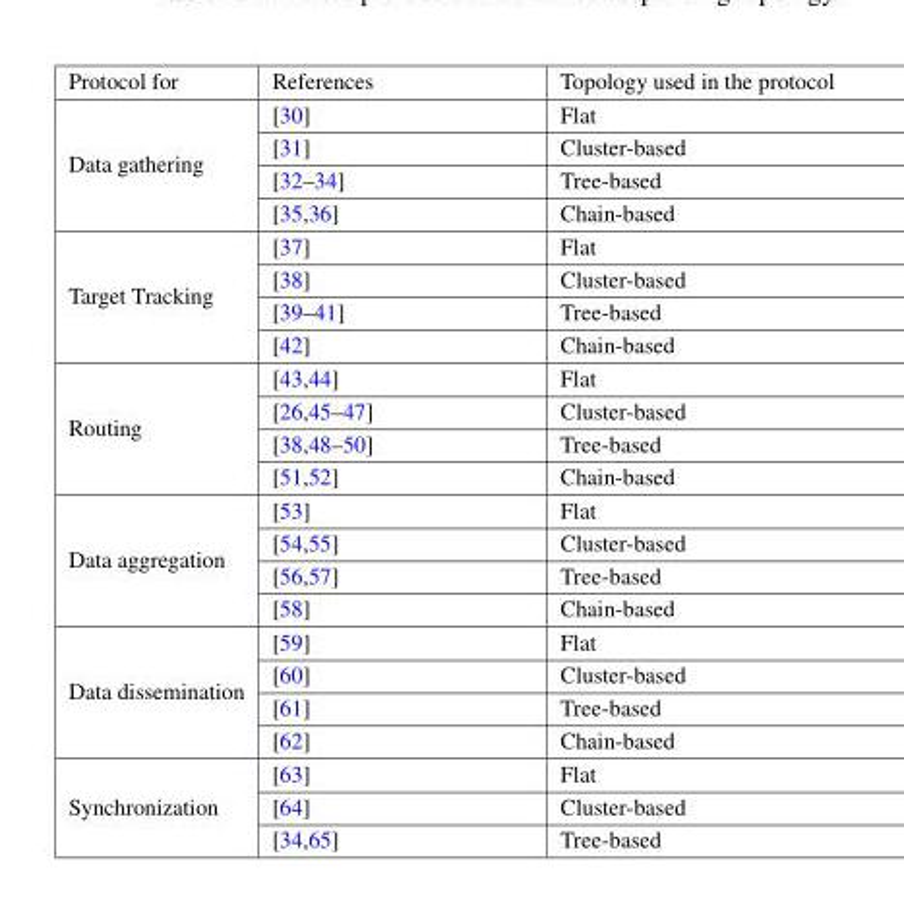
<table><thead><tr><td>Protocol for</td><td>References</td><td>Topology used in the protocol</td></tr></thead><tbody><tr><td rowspan="4">Data gathering</td><td>[30]</td><td>Flat</td></tr><tr><td>[31]</td><td>Cluster-based</td></tr><tr><td>[32–34]</td><td>Tree-based</td></tr><tr><td>[35,36]</td><td>Chain-based</td></tr><tr><td rowspan="4">Target Tracking</td><td>[37]</td><td>Flat</td></tr><tr><td>[38]</td><td>Cluster-based</td></tr><tr><td>[39–41]</td><td>Tree-based</td></tr><tr><td>[42]</td><td>Chain-based</td></tr><tr><td rowspan="4">Routing</td><td>[43,44]</td><td>Flat</td></tr><tr><td>[26,45–47]</td><td>Cluster-based</td></tr><tr><td>[38,48–50]</td><td>Tree-based</td></tr><tr><td>[51,52]</td><td>Chain-based</td></tr><tr><td rowspan="4">Data aggregation</td><td>[53]</td><td>Flat</td></tr><tr><td>[54,55]</td><td>Cluster-based</td></tr><tr><td>[56,57]</td><td>Tree-based</td></tr><tr><td>[58]</td><td>Chain-based</td></tr><tr><td rowspan="4">Data dissemination</td><td>[59]</td><td>Flat</td></tr><tr><td>[60]</td><td>Cluster-based</td></tr><tr><td>[61]</td><td>Tree-based</td></tr><tr><td>[62]</td><td>Chain-based</td></tr><tr><td rowspan="3">Synchronization</td><td>[63]</td><td>Flat</td></tr><tr><td>[64]</td><td>Cluster-based</td></tr><tr><td>[34,65]</td><td>Tree-based</td></tr></tbody></table>